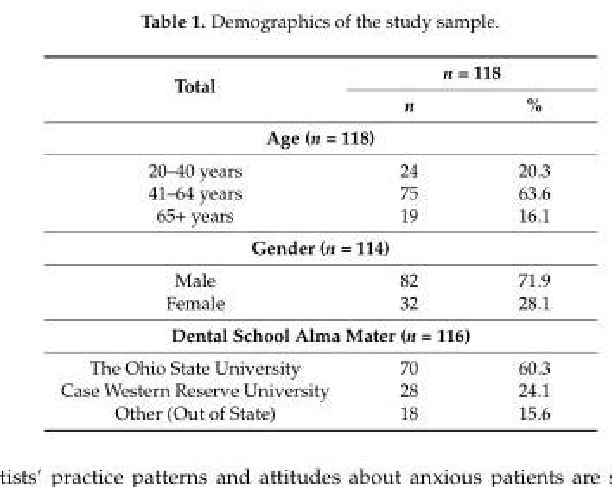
<table><thead><tr><td rowspan="2">Total</td><td colspan="2">n = 118</td></tr><tr><td>n</td><td>%</td></tr></thead><tbody><tr><td colspan="3">Age (n = 118)</td></tr><tr><td>20–40 years</td><td>24</td><td>20.3</td></tr><tr><td>41–64 years</td><td>75</td><td>63.6</td></tr><tr><td>65+ years</td><td>19</td><td>16.1</td></tr><tr><td colspan="3">Gender (n = 114)</td></tr><tr><td>Male</td><td>82</td><td>71.9</td></tr><tr><td>Female</td><td>32</td><td>28.1</td></tr><tr><td colspan="3">Dental School Alma Mater (n = 116)</td></tr><tr><td>The Ohio State University</td><td>70</td><td>60.3</td></tr><tr><td>Case Western Reserve University</td><td>28</td><td>24.1</td></tr><tr><td>Other (Out of State)</td><td>18</td><td>15.6</td></tr></tbody></table>